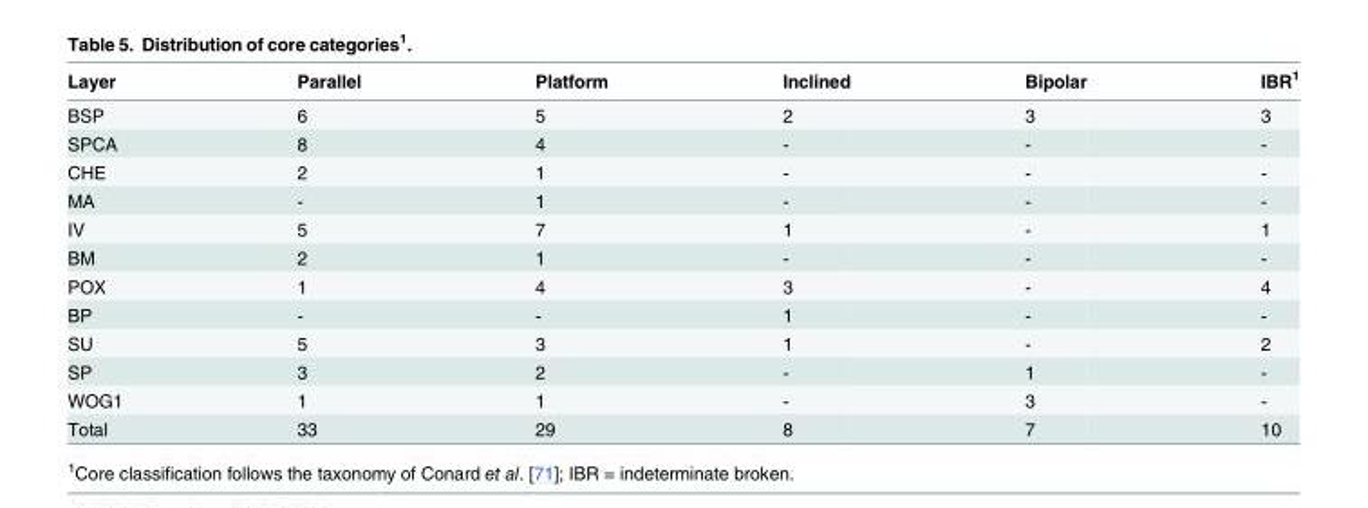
<table><thead><tr><td>Layer</td><td>Parallel</td><td>Platform</td><td>Inclined</td><td>Bipolar</td><td>IBR<sup>1</sup></td></tr></thead><tbody><tr><td>BSP</td><td>6</td><td>5</td><td>2</td><td>3</td><td>3</td></tr><tr><td>SPCA</td><td>8</td><td>4</td><td>-</td><td>-</td><td>-</td></tr><tr><td>CHE</td><td>2</td><td>1</td><td>-</td><td>-</td><td>-</td></tr><tr><td>MA</td><td>-</td><td>1</td><td>-</td><td>-</td><td>-</td></tr><tr><td>IV</td><td>5</td><td>7</td><td>1</td><td>-</td><td>1</td></tr><tr><td>BM</td><td>2</td><td>1</td><td>-</td><td>-</td><td>-</td></tr><tr><td>POX</td><td>1</td><td>4</td><td>3</td><td>-</td><td>4</td></tr><tr><td>BP</td><td>-</td><td>-</td><td>1</td><td>-</td><td>-</td></tr><tr><td>SU</td><td>5</td><td>3</td><td>1</td><td>-</td><td>2</td></tr><tr><td>SP</td><td>3</td><td>2</td><td>-</td><td>1</td><td>-</td></tr><tr><td>WOG1</td><td>1</td><td>1</td><td>-</td><td>3</td><td>-</td></tr><tr><td>Total</td><td>33</td><td>29</td><td>8</td><td>7</td><td>10</td></tr></tbody></table>